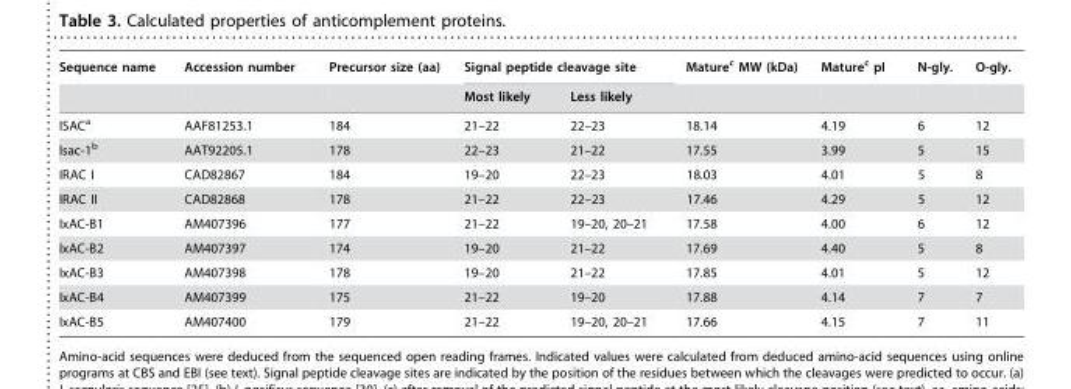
<table><thead><tr><td rowspan="2">Sequence name</td><td rowspan="2">Accession number</td><td rowspan="2">Precursor size (aa)</td><td colspan="2">Signal peptide cleavage site</td><td rowspan="2">Mature<sup>c</sup> MW (kDa)</td><td rowspan="2">Mature<sup>c</sup> pI</td><td rowspan="2">N-gly.</td><td rowspan="2">O-gly.</td></tr><tr><td>Most likely</td><td>Less likely</td></tr></thead><tbody><tr><td>ISAC<sup>a</sup></td><td>AAF81253.1</td><td>184</td><td>21–22</td><td>22–23</td><td>18.14</td><td>4.19</td><td>6</td><td>12</td></tr><tr><td>Isac-1<sup>b</sup></td><td>AAT92205.1</td><td>178</td><td>22–23</td><td>21–22</td><td>17.55</td><td>3.99</td><td>5</td><td>15</td></tr><tr><td>IRAC I</td><td>CAD82867</td><td>184</td><td>19–20</td><td>22–23</td><td>18.03</td><td>4.01</td><td>5</td><td>8</td></tr><tr><td>IRAC II</td><td>CAD82868</td><td>178</td><td>21–22</td><td>22–23</td><td>17.46</td><td>4.29</td><td>5</td><td>12</td></tr><tr><td>IxAC-B1</td><td>AM407396</td><td>177</td><td>21–22</td><td>19–20, 20–21</td><td>17.58</td><td>4.00</td><td>6</td><td>12</td></tr><tr><td>IxAC-B2</td><td>AM407397</td><td>174</td><td>19–20</td><td>21–22</td><td>17.69</td><td>4.40</td><td>5</td><td>8</td></tr><tr><td>IxAC-B3</td><td>AM407398</td><td>178</td><td>19–20</td><td>21–22</td><td>17.85</td><td>4.01</td><td>5</td><td>12</td></tr><tr><td>IxAC-B4</td><td>AM407399</td><td>175</td><td>21–22</td><td>19–20</td><td>17.88</td><td>4.14</td><td>7</td><td>7</td></tr><tr><td>IxAC-B5</td><td>AM407400</td><td>179</td><td>21–22</td><td>19–20, 20–21</td><td>17.66</td><td>4.15</td><td>7</td><td>11</td></tr></tbody></table>